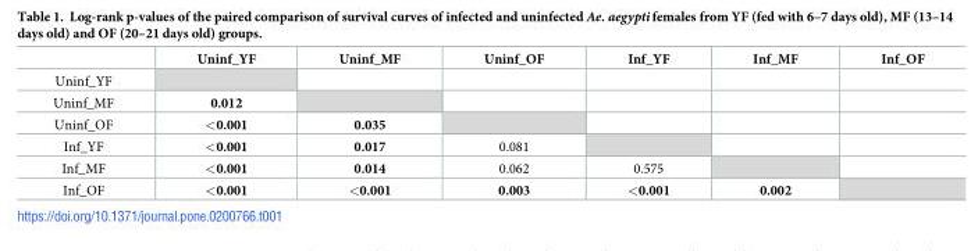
<table><thead><tr><td></td><td>Uninf_YF</td><td>Uninf_MF</td><td>Uninf_OF</td><td>Inf_YF</td><td>Inf_MF</td><td>Inf_OF</td></tr></thead><tbody><tr><td colspan="7">Uninf_YF</td></tr><tr><td>Uninf_MF</td><td>0.012</td><td></td><td></td><td></td><td></td><td></td></tr><tr><td>Uninf_OF</td><td>&lt;0.001</td><td>0.035</td><td></td><td></td><td></td><td></td></tr><tr><td>Inf_YF</td><td>&lt;0.001</td><td>0.017</td><td>0.081</td><td></td><td></td><td></td></tr><tr><td>Inf_MF</td><td>&lt;0.001</td><td>0.014</td><td>0.062</td><td>0.575</td><td></td><td></td></tr><tr><td>Inf_OF</td><td>&lt;0.001</td><td>&lt;0.001</td><td>0.003</td><td>&lt;0.001</td><td>0.002</td><td></td></tr></tbody></table>